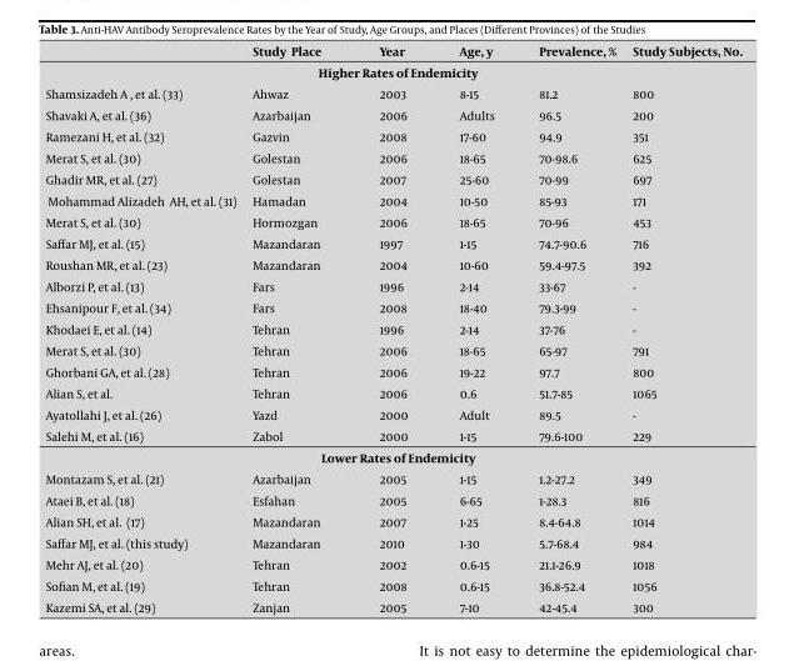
<table><thead><tr><td></td><td>Study Place</td><td>Year</td><td>Age, y</td><td>Prevalence, %</td><td>Study Subjects, No.</td></tr></thead><tbody><tr><td colspan="6">Higher Rates of Endemicity</td></tr><tr><td>Shamsizadeh A , et al. (33)</td><td>Ahwaz</td><td>2003</td><td>8-15</td><td>81.2</td><td>800</td></tr><tr><td>Shavaki A, et al. (36)</td><td>Azarbaijan</td><td>2006</td><td>Adults</td><td>96.5</td><td>200</td></tr><tr><td>Ramezani H, et al. (32)</td><td>Gazvin</td><td>2008</td><td>17-60</td><td>94.9</td><td>351</td></tr><tr><td>Merat S, et al. (30)</td><td>Golestan</td><td>2006</td><td>18-65</td><td>70-98.6</td><td>625</td></tr><tr><td>Ghadir MR, et al. (27)</td><td>Golestan</td><td>2007</td><td>25-60</td><td>70-99</td><td>697</td></tr><tr><td>Mohammad Alizadeh AH, et al. (31)</td><td>Hamadan</td><td>2004</td><td>10-50</td><td>85-93</td><td>171</td></tr><tr><td>Merat S, et al. (30)</td><td>Hormozgan</td><td>2006</td><td>18-65</td><td>70-96</td><td>453</td></tr><tr><td>Saffar MJ, et al. (15)</td><td>Mazandaran</td><td>1997</td><td>1-15</td><td>74.7-90.6</td><td>716</td></tr><tr><td>Roushan MR, et al. (23)</td><td>Mazandaran</td><td>2004</td><td>10-60</td><td>59.4-97.5</td><td>392</td></tr><tr><td>Alborzi P, et al. (13)</td><td>Fars</td><td>1996</td><td>2-14</td><td>33-67</td><td>-</td></tr><tr><td>Ehsanipour F, et al. (34)</td><td>Fars</td><td>2008</td><td>18-40</td><td>79.3-99</td><td>-</td></tr><tr><td>Khodaei E, et al. (14)</td><td>Tehran</td><td>1996</td><td>2-14</td><td>37-76</td><td>-</td></tr><tr><td>Merat S, et al. (30)</td><td>Tehran</td><td>2006</td><td>18-65</td><td>65-97</td><td>791</td></tr><tr><td>Ghorbani GA, et al. (28)</td><td>Tehran</td><td>2006</td><td>19-22</td><td>97.7</td><td>800</td></tr><tr><td>Alian S, et al.</td><td>Tehran</td><td>2006</td><td>0.6</td><td>51.7-85</td><td>1065</td></tr><tr><td>Ayatollahi J, et al. (26)</td><td>Yazd</td><td>2000</td><td>Adult</td><td>89.5</td><td>-</td></tr><tr><td>Salehi M, et al. (16)</td><td>Zabol</td><td>2000</td><td>1-15</td><td>79.6-100</td><td>229</td></tr><tr><td colspan="6">Lower Rates of Endemicity</td></tr><tr><td>Montazam S, et al. (21)</td><td>Azarbaijan</td><td>2005</td><td>1-15</td><td>1.2-27.2</td><td>349</td></tr><tr><td>Ataei B, et al. (18)</td><td>Esfahan</td><td>2005</td><td>6-65</td><td>1-28.3</td><td>816</td></tr><tr><td>Alian SH, et al. (17)</td><td>Mazandaran</td><td>2007</td><td>1-25</td><td>8.4-64.8</td><td>1014</td></tr><tr><td>Saffar MJ, et al. (this study)</td><td>Mazandaran</td><td>2010</td><td>1-30</td><td>5.7-68.4</td><td>984</td></tr><tr><td>Mehr AJ, et al. (20)</td><td>Tehran</td><td>2002</td><td>0.6-15</td><td>21.1-26.9</td><td>1018</td></tr><tr><td>Sofian M, et al. (19)</td><td>Tehran</td><td>2008</td><td>0.6-15</td><td>36.8-52.4</td><td>1056</td></tr><tr><td>Kazemi SA, et al. (29)</td><td>Zanjan</td><td>2005</td><td>7-10</td><td>42-45.4</td><td>300</td></tr></tbody></table>